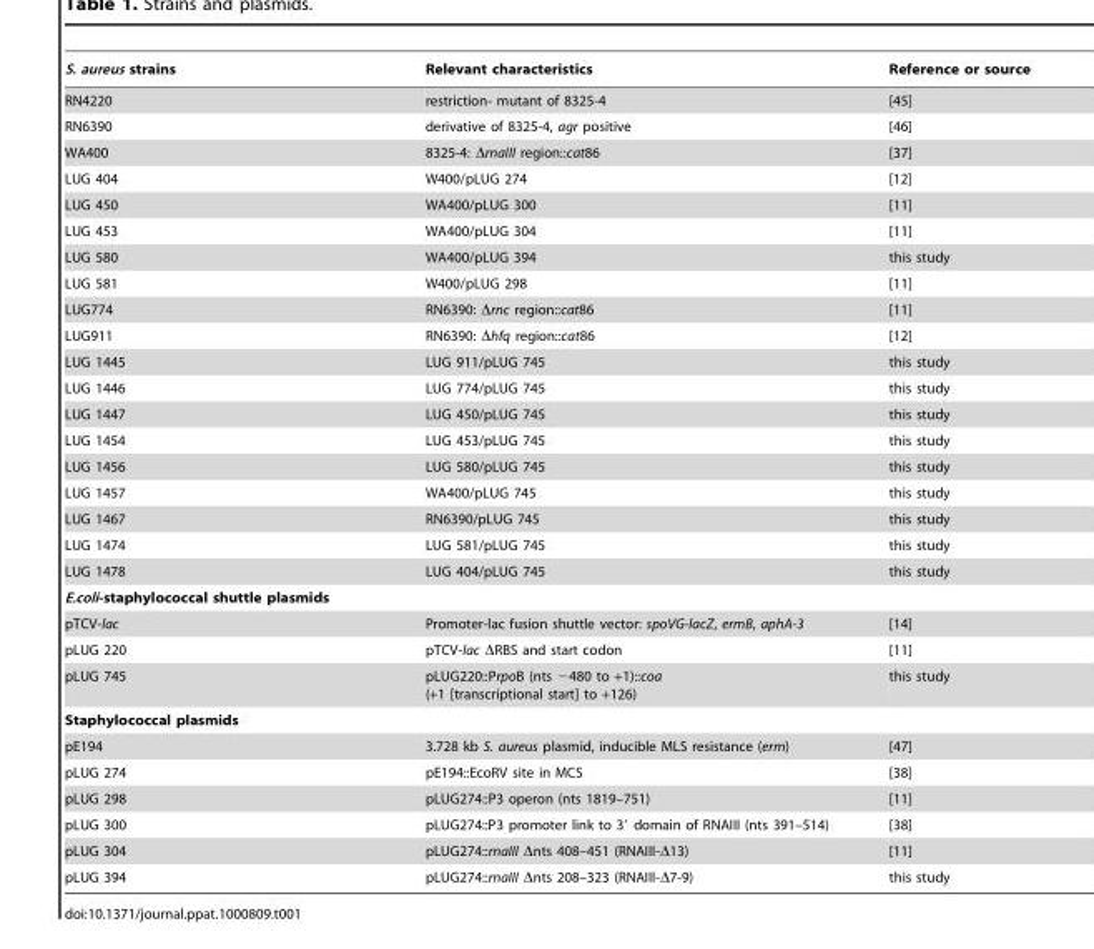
<table><thead><tr><td>S. aureus strains</td><td>Relevant characteristics</td><td>Reference or source</td></tr></thead><tbody><tr><td>RN4220</td><td>restriction- mutant of 8325-4</td><td>[45]</td></tr><tr><td>RN6390</td><td>derivative of 8325-4, agr positive</td><td>[46]</td></tr><tr><td>WA400</td><td>8325-4: ΔrnaIII region::cat86</td><td>[37]</td></tr><tr><td>LUG 404</td><td>W400/pLUG 274</td><td>[12]</td></tr><tr><td>LUG 450</td><td>WA400/pLUG 300</td><td>[11]</td></tr><tr><td>LUG 453</td><td>WA400/pLUG 304</td><td>[11]</td></tr><tr><td>LUG 580</td><td>WA400/pLUG 394</td><td>this study</td></tr><tr><td>LUG 581</td><td>W400/pLUG 298</td><td>[11]</td></tr><tr><td>LUG774</td><td>RN6390: Δrnc region::cat86</td><td>[11]</td></tr><tr><td>LUG911</td><td>RN6390: Δhfq region::cat86</td><td>[12]</td></tr><tr><td>LUG 1445</td><td>LUG 911/pLUG 745</td><td>this study</td></tr><tr><td>LUG 1446</td><td>LUG 774/pLUG 745</td><td>this study</td></tr><tr><td>LUG 1447</td><td>LUG 450/pLUG 745</td><td>this study</td></tr><tr><td>LUG 1454</td><td>LUG 453/pLUG 745</td><td>this study</td></tr><tr><td>LUG 1456</td><td>LUG 580/pLUG 745</td><td>this study</td></tr><tr><td>LUG 1457</td><td>WA400/pLUG 745</td><td>this study</td></tr><tr><td>LUG 1467</td><td>RN6390/pLUG 745</td><td>this study</td></tr><tr><td>LUG 1474</td><td>LUG 581/pLUG 745</td><td>this study</td></tr><tr><td>LUG 1478</td><td>LUG 404/pLUG 745</td><td>this study</td></tr><tr><td colspan="3">E.coli-staphylococcal shuttle plasmids</td></tr><tr><td>pTCV-lac</td><td>Promoter-lac fusion shuttle vector: spoVG-lacZ, ermB, aphA-3</td><td>[14]</td></tr><tr><td>pLUG 220</td><td>pTCV-lac ΔRBS and start codon</td><td>[11]</td></tr><tr><td>pLUG 745</td><td>pLUG220::PrpoB (nts −480 to +1)::coa (+1 [transcriptional start] to +126)</td><td>this study</td></tr><tr><td colspan="3">Staphylococcal plasmids</td></tr><tr><td>pE194</td><td>3.728 kb S. aureus plasmid, inducible MLS resistance (erm)</td><td>[47]</td></tr><tr><td>pLUG 274</td><td>pE194::EcoRV site in MCS</td><td>[38]</td></tr><tr><td>pLUG 298</td><td>pLUG274::P3 operon (nts 1819–751)</td><td>[11]</td></tr><tr><td>pLUG 300</td><td>pLUG274::P3 promoter link to 3′ domain of RNAIII (nts 391–514)</td><td>[38]</td></tr><tr><td>pLUG 304</td><td>pLUG274::rnaIII Δnts 408–451 (RNAIII-Δ13)</td><td>[11]</td></tr><tr><td>pLUG 394</td><td>pLUG274::rnaIII Δnts 208–323 (RNAIII-Δ7-9)</td><td>this study</td></tr></tbody></table>